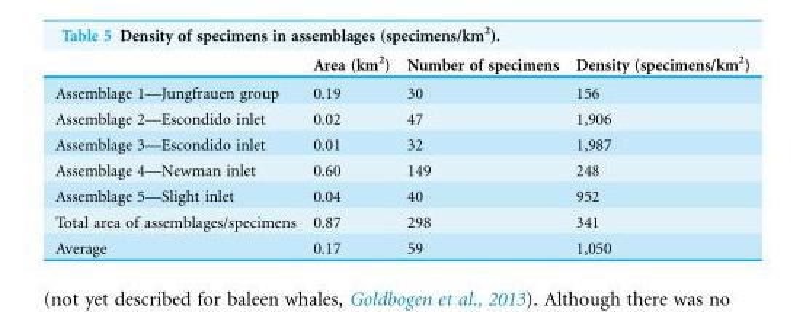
<table><thead><tr><td></td><td>Area (km<sup>2</sup>)</td><td>Number of specimens</td><td>Density (specimens/km<sup>2</sup>)</td></tr></thead><tbody><tr><td>Assemblage 1—Jungfrauen group</td><td>0.19</td><td>30</td><td>156</td></tr><tr><td>Assemblage 2—Escondido inlet</td><td>0.02</td><td>47</td><td>1,906</td></tr><tr><td>Assemblage 3—Escondido inlet</td><td>0.01</td><td>32</td><td>1,987</td></tr><tr><td>Assemblage 4—Newman inlet</td><td>0.60</td><td>149</td><td>248</td></tr><tr><td>Assemblage 5—Slight inlet</td><td>0.04</td><td>40</td><td>952</td></tr><tr><td>Total area of assemblages/specimens</td><td>0.87</td><td>298</td><td>341</td></tr><tr><td>Average</td><td>0.17</td><td>59</td><td>1,050</td></tr></tbody></table>